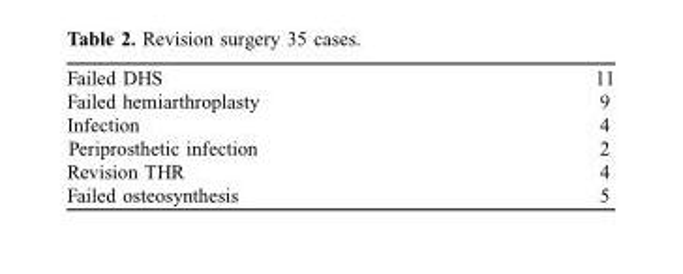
<table><tbody><tr><td>Failed DHS</td><td>11</td></tr><tr><td>Failed hemiarthroplasty</td><td>9</td></tr><tr><td>Infection</td><td>4</td></tr><tr><td>Periprosthetic infection</td><td>2</td></tr><tr><td>Revision THR</td><td>4</td></tr><tr><td>Failed osteosynthesis</td><td>5</td></tr></tbody></table>